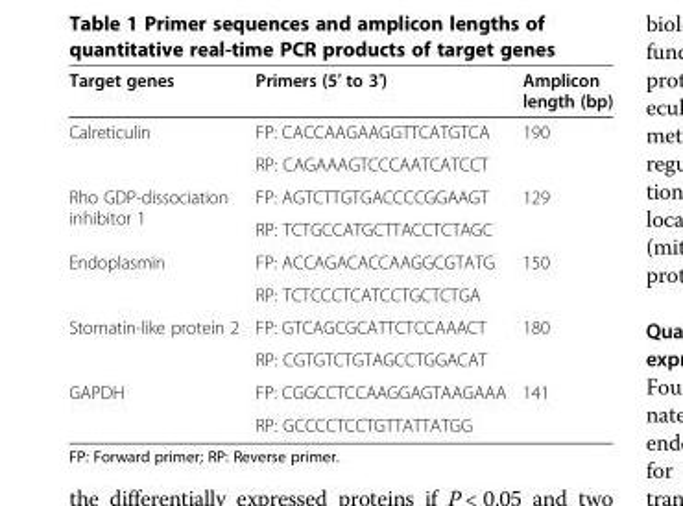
<table><thead><tr><td>Target genes</td><td>Primers (5′ to 3′)</td><td>Amplicon length (bp)</td></tr></thead><tbody><tr><td rowspan="2">Calreticulin</td><td>FP: CACCAAGAAGGTTCATGTCA</td><td rowspan="2">190</td></tr><tr><td>RP: CAGAAAGTCCCAATCATCCT</td></tr><tr><td rowspan="2">Rho GDP-dissociation inhibitor 1</td><td>FP: AGTCTTGTGACCCCGGAAGT</td><td rowspan="2">129</td></tr><tr><td>RP: TCTGCCATGCTTACCTCTAGC</td></tr><tr><td rowspan="2">Endoplasmin</td><td>FP: ACCAGACACCAAGGCGTATG</td><td rowspan="2">150</td></tr><tr><td>RP: TCTCCCTCATCCTGCTCTGA</td></tr><tr><td rowspan="2">Stomatin-like protein 2</td><td>FP: GTCAGCGCATTCTCCAAACT</td><td rowspan="2">180</td></tr><tr><td>RP: CGTGTCTGTAGCCTGGACAT</td></tr><tr><td rowspan="2">GAPDH</td><td>FP: CGGCCTCCAAGGAGTAAGAAA</td><td rowspan="2">141</td></tr><tr><td>RP: GCCCCTCCTGTTATTATGG</td></tr></tbody></table>